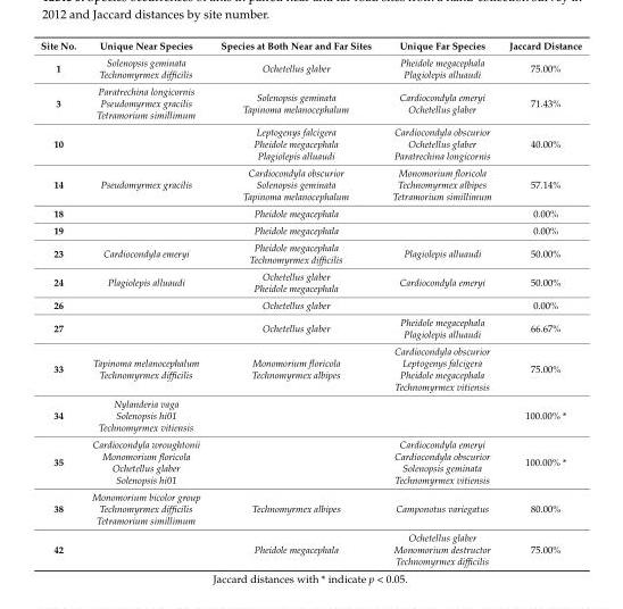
<table><thead><tr><td>Site No.</td><td>Unique Near Species</td><td>Species at Both Near and Far Sites</td><td>Unique Far Species</td><td>Jaccard Distance</td></tr></thead><tbody><tr><td>1</td><td>Solenopsis geminata Technomyrmex difficilis</td><td>Ochetellus glaber</td><td>Pheidole megacephala Plagiolepis alluaudi</td><td>75.00%</td></tr><tr><td>3</td><td>Paratrechina longicornis Pseudomyrmex gracilis Tetramorium simillimum</td><td>Solenopsis geminata Tapinoma melanocephalum</td><td>Cardiocondyla emeryi Ochetellus glaber</td><td>71.43%</td></tr><tr><td>10</td><td></td><td>Leptogenys falcigera Pheidole megacephala Plagiolepis alluaudi</td><td>Cardiocondyla obscurior Ochetellus glaber Paratrechina longicornis</td><td>40.00%</td></tr><tr><td>14</td><td>Pseudomyrmex gracilis</td><td>Cardiocondyla obscurior Solenopsis geminata Tapinoma melanocephalum</td><td>Monomorium floricola Technomyrmex albipes Tetramorium simillimum</td><td>57.14%</td></tr><tr><td>18</td><td></td><td>Pheidole megacephala</td><td></td><td>0.00%</td></tr><tr><td>19</td><td></td><td>Pheidole megacephala</td><td></td><td>0.00%</td></tr><tr><td>23</td><td>Cardiocondyla emeryi</td><td>Pheidole megacephala Technomyrmex difficilis</td><td>Plagiolepis alluaudi</td><td>50.00%</td></tr><tr><td>24</td><td>Plagiolepis alluaudi</td><td>Ochetellus glaber Pheidole megacephala</td><td>Cardiocondyla emeryi</td><td>50.00%</td></tr><tr><td>26</td><td></td><td>Ochetellus glaber</td><td></td><td>0.00%</td></tr><tr><td>27</td><td></td><td>Ochetellus glaber</td><td>Pheidole megacephala Plagiolepis alluaudi</td><td>66.67%</td></tr><tr><td>33</td><td>Tapinoma melanocephalum Technomyrmex difficilis</td><td>Monomorium floricola Technomyrmex albipes</td><td>Cardiocondyla obscurior Leptogenys falcigera Pheidole megacephala Technomyrmex vitiensis</td><td>75.00%</td></tr><tr><td>34</td><td>Nylanderia vaga Solenopsis hi01 Technomyrmex vitiensis</td><td></td><td></td><td>100.00% *</td></tr><tr><td>35</td><td>Cardiocondyla wroughtonii Monomorium floricola Ochetellus glaber Solenopsis hi01</td><td></td><td>Cardiocondyla emeryi Cardiocondyla obscurior Solenopsis geminata Technomyrmex vitiensis</td><td>100.00% *</td></tr><tr><td>38</td><td>Monomorium bicolor group Technomyrmex difficilis Tetramorium simillimum</td><td>Technomyrmex albipes</td><td>Camponotus variegatus</td><td>80.00%</td></tr><tr><td>42</td><td></td><td>Pheidole megacephala</td><td>Ochetellus glaber Monomorium destructor Technomyrmex difficilis</td><td>75.00%</td></tr></tbody></table>